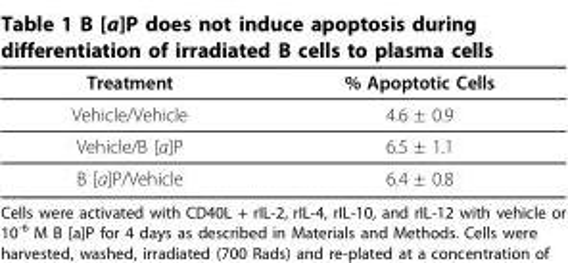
<table><thead><tr><td>Treatment</td><td>% Apoptotic Cells</td></tr></thead><tbody><tr><td>Vehicle/Vehicle</td><td>4.6 ± 0.9</td></tr><tr><td>Vehicle/B [a]P</td><td>6.5 ± 1.1</td></tr><tr><td>B [a]P/Vehicle</td><td>6.4 ± 0.8</td></tr></tbody></table>